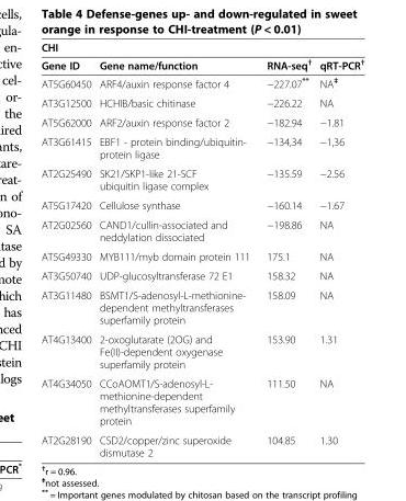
<table><thead><tr><td colspan="4">CHI</td></tr><tr><td>Gene ID</td><td>Gene name/function</td><td>RNA-seq<sup>†</sup></td><td>qRT-PCR<sup>†</sup></td></tr></thead><tbody><tr><td>AT5G60450</td><td>ARF4/auxin response factor 4</td><td>−227.07**</td><td>NA<sup>‡</sup></td></tr><tr><td>AT3G12500</td><td>HCHIB/basic chitinase</td><td>−226.22</td><td>NA</td></tr><tr><td>AT5G62000</td><td>ARF2/auxin response factor 2</td><td>−182.94</td><td>−1.81</td></tr><tr><td>AT3G61415</td><td>EBF1 - protein binding/ubiquitin- protein ligase</td><td>−134,34</td><td>−1,36</td></tr><tr><td>AT2G25490</td><td>SK21/SKP1-like 21-SCF ubiquitin ligase complex</td><td>−135.59</td><td>−2.56</td></tr><tr><td>AT5G17420</td><td>Cellulose synthase</td><td>−160.14</td><td>−1.67</td></tr><tr><td>AT2G02560</td><td>CAND1/cullin-associated and neddylation dissociated</td><td>−198.86</td><td>NA</td></tr><tr><td>AT5G49330</td><td>MYB111/myb domain protein 111</td><td>175.1</td><td>NA</td></tr><tr><td>AT3G50740</td><td>UDP-glucosyltransferase 72 E1</td><td>158.32</td><td>NA</td></tr><tr><td>AT3G11480</td><td>BSMT1/S-adenosyl-L-methionine- dependent methyltransferases superfamily protein</td><td>158.09</td><td>NA</td></tr><tr><td>AT4G13400</td><td>2-oxoglutarate (2OG) and Fe(II)-dependent oxygenase superfamily protein</td><td>153.90</td><td>1.31</td></tr><tr><td>AT4G34050</td><td>CCoAOMT1/S-adenosyl-L- methionine-dependent methyltransferases superfamily protein</td><td>111.50</td><td>NA</td></tr><tr><td>AT2G28190</td><td>CSD2/copper/zinc superoxide dismutase 2</td><td>104.85</td><td>1.30</td></tr></tbody></table>